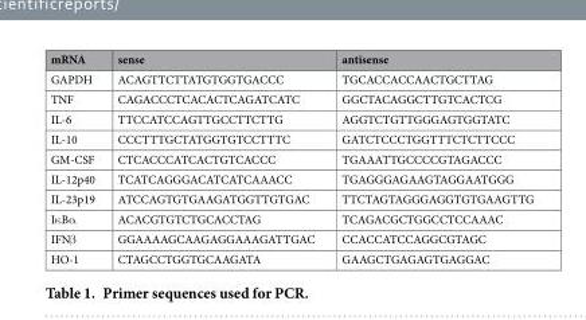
<table><thead><tr><td>mRNA</td><td>sense</td><td>antisense</td></tr></thead><tbody><tr><td>GAPDH</td><td>ACAGTTCTTATGTGGTGACCC</td><td>TGCACCACCAACTGCTTAG</td></tr><tr><td>TNF</td><td>CAGACCCTCACACTCAGATCATC</td><td>GGCTACAGGCTTGTCACTCG</td></tr><tr><td>IL-6</td><td>TTCCATCCAGTTGCCTTCTTG</td><td>AGGTCTGTTGGGAGTGGTATC</td></tr><tr><td>IL-10</td><td>CCCTTTGCTATGGTGTCCTTTC</td><td>GATCTCCCTGGTTTCTCTTCCC</td></tr><tr><td>GM-CSF</td><td>CTCACCCATCACTGTCACCC</td><td>TGAAATTGCCCCGTAGACCC</td></tr><tr><td>IL-12p40</td><td>TCATCAGGGACATCATCAAACC</td><td>TGAGGGAGAAGTAGGAATGGG</td></tr><tr><td>IL-23p19</td><td>ATCCAGTGTGAAGATGGTTGTGAC</td><td>TTCTAGTAGGGAGGTGTGAAGTTG</td></tr><tr><td>Iκ Bα</td><td>ACACGTGTCTGCACCTAG</td><td>TCAGACGCTGGCCTCCAAAC</td></tr><tr><td>IFNβ</td><td>GGAAAAGCAAGAGGAAAGATTGAC</td><td>CCACCATCCAGGCGTAGC</td></tr><tr><td>HO-1</td><td>CTAGCCTGGTGCAAGATA</td><td>GAAGCTGAGAGTGAGGAC</td></tr></tbody></table>